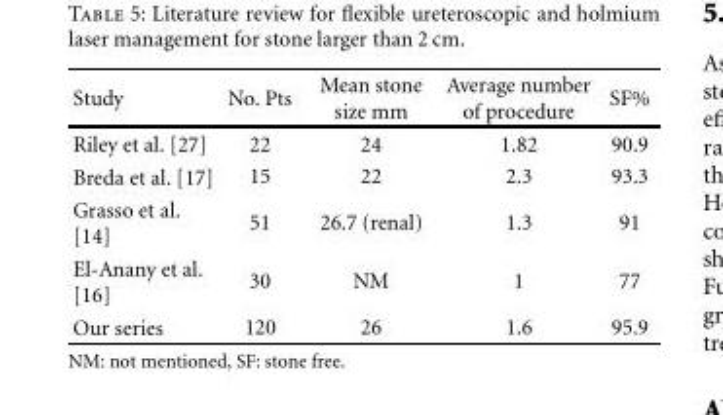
<table><thead><tr><td>Study</td><td>No. Pts</td><td>Mean stone size mm</td><td>Average number of procedure</td><td>SF%</td></tr></thead><tbody><tr><td>Riley et al. [27]</td><td>22</td><td>24</td><td>1.82</td><td>90.9</td></tr><tr><td>Breda et al. [17]</td><td>15</td><td>22</td><td>2.3</td><td>93.3</td></tr><tr><td>Grasso et al. [14]</td><td>51</td><td>26.7 (renal)</td><td>1.3</td><td>91</td></tr><tr><td>El-Anany et al. [16]</td><td>30</td><td>NM</td><td>1</td><td>77</td></tr><tr><td>Our series</td><td>120</td><td>26</td><td>1.6</td><td>95.9</td></tr></tbody></table>